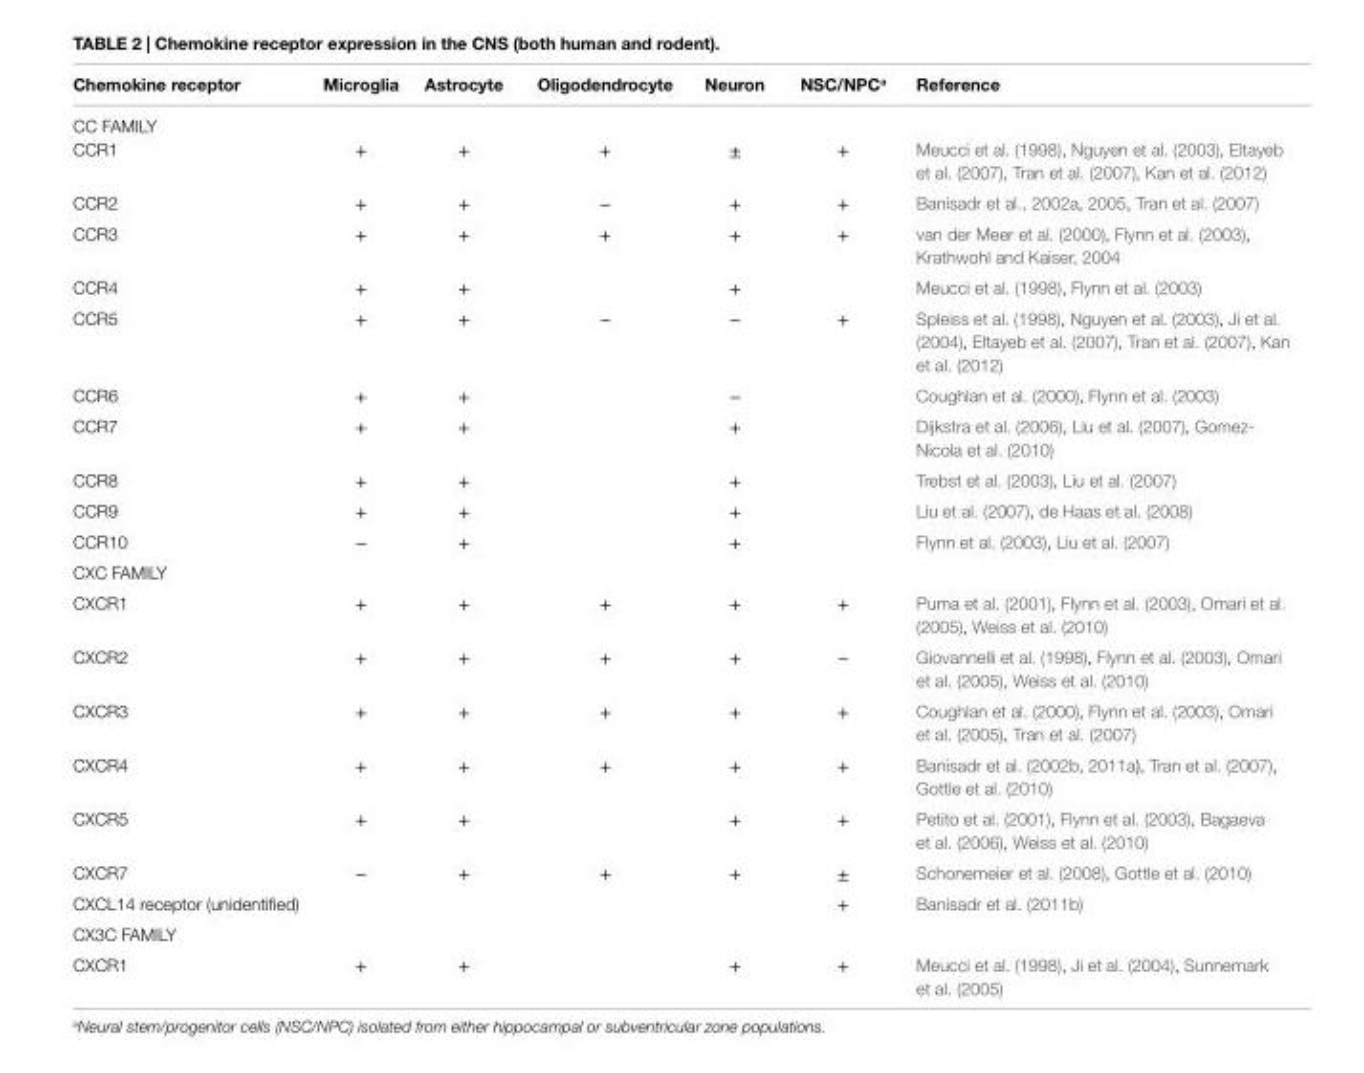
<table><thead><tr><td>Chemokine receptor</td><td>Microglia</td><td>Astrocyte</td><td>Oligodendrocyte</td><td>Neuron</td><td>NSC/NPC<sup>a</sup></td><td>Reference</td></tr></thead><tbody><tr><td colspan="7">CC FAMILY</td></tr><tr><td>CCR1</td><td>+</td><td>+</td><td>+</td><td>±</td><td>+</td><td>Meucci et al. (1998), Nguyen et al. (2003), Eltayeb et al. (2007), Tran et al. (2007), Kan et al. (2012)</td></tr><tr><td>CCR2</td><td>+</td><td>+</td><td>−</td><td>+</td><td>+</td><td>Banisadr et al., 2002a, 2005, Tran et al. (2007)</td></tr><tr><td>CCR3</td><td>+</td><td>+</td><td>+</td><td>+</td><td>+</td><td>van der Meer et al. (2000), Flynn et al. (2003), Krathwohl and Kaiser, 2004</td></tr><tr><td>CCR4</td><td>+</td><td>+</td><td></td><td>+</td><td></td><td>Meucci et al. (1998), Flynn et al. (2003)</td></tr><tr><td>CCR5</td><td>+</td><td>+</td><td>−</td><td>−</td><td>+</td><td>Spleiss et al. (1998), Nguyen et al. (2003), Ji et al. (2004), Eltayeb et al. (2007), Tran et al. (2007), Kan et al. (2012)</td></tr><tr><td>CCR6</td><td>+</td><td>+</td><td></td><td>−</td><td></td><td>Coughlan et al. (2000), Flynn et al. (2003)</td></tr><tr><td>CCR7</td><td>+</td><td>+</td><td></td><td>+</td><td></td><td>Dijkstra et al. (2006), Liu et al. (2007), Gomez- Nicola et al. (2010)</td></tr><tr><td>CCR8</td><td>+</td><td>+</td><td></td><td>+</td><td></td><td>Trebst et al. (2003), Liu et al. (2007)</td></tr><tr><td>CCR9</td><td>+</td><td>+</td><td></td><td>+</td><td></td><td>Liu et al. (2007), de Haas et al. (2008)</td></tr><tr><td>CCR10</td><td>−</td><td>+</td><td></td><td>+</td><td></td><td>Flynn et al. (2003), Liu et al. (2007)</td></tr><tr><td colspan="7">CXC FAMILY</td></tr><tr><td>CXCR1</td><td>+</td><td>+</td><td>+</td><td>+</td><td>+</td><td>Puma et al. (2001), Flynn et al. (2003), Omari et al. (2005), Weiss et al. (2010)</td></tr><tr><td>CXCR2</td><td>+</td><td>+</td><td>+</td><td>+</td><td>−</td><td>Giovannelli et al. (1998), Flynn et al. (2003), Omari et al. (2005), Weiss et al. (2010)</td></tr><tr><td>CXCR3</td><td>+</td><td>+</td><td>+</td><td>+</td><td>+</td><td>Coughlan et al. (2000), Flynn et al. (2003), Omari et al. (2005), Tran et al. (2007)</td></tr><tr><td>CXCR4</td><td>+</td><td>+</td><td>+</td><td>+</td><td>+</td><td>Banisadr et al. (2002b, 2011a), Tran et al. (2007), Gottle et al. (2010)</td></tr><tr><td>CXCR5</td><td>+</td><td>+</td><td></td><td>+</td><td>+</td><td>Petito et al. (2001), Flynn et al. (2003), Bagaeva et al. (2006), Weiss et al. (2010)</td></tr><tr><td>CXCR7</td><td>−</td><td>+</td><td>+</td><td>+</td><td>±</td><td>Schonemeier et al. (2008), Gottle et al. (2010)</td></tr><tr><td>CXCL14 receptor (unidentified)</td><td></td><td></td><td></td><td></td><td>+</td><td>Banisadr et al. (2011b)</td></tr><tr><td colspan="7">CX3C FAMILY</td></tr><tr><td>CXCR1</td><td>+</td><td>+</td><td></td><td>+</td><td>+</td><td>Meucci et al. (1998), Ji et al. (2004), Sunnemark et al. (2005)</td></tr></tbody></table>